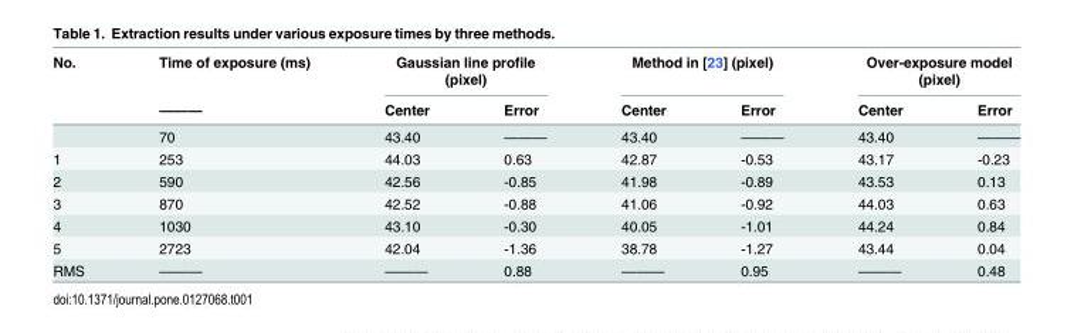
<table><thead><tr><td rowspan="2">No.</td><td rowspan="2">Time of exposure (ms) ———</td><td colspan="2">Gaussian line profile (pixel)</td><td colspan="2">Method in [23] (pixel)</td><td colspan="2">Over-exposure model (pixel)</td></tr><tr><td>Center</td><td>Error</td><td>Center</td><td>Error</td><td>Center</td><td>Error</td></tr></thead><tbody><tr><td></td><td>70</td><td>43.40</td><td>———</td><td>43.40</td><td>———</td><td>43.40</td><td>———</td></tr><tr><td>1</td><td>253</td><td>44.03</td><td>0.63</td><td>42.87</td><td>-0.53</td><td>43.17</td><td>-0.23</td></tr><tr><td>2</td><td>590</td><td>42.56</td><td>-0.85</td><td>41.98</td><td>-0.89</td><td>43.53</td><td>0.13</td></tr><tr><td>3</td><td>870</td><td>42.52</td><td>-0.88</td><td>41.06</td><td>-0.92</td><td>44.03</td><td>0.63</td></tr><tr><td>4</td><td>1030</td><td>43.10</td><td>-0.30</td><td>40.05</td><td>-1.01</td><td>44.24</td><td>0.84</td></tr><tr><td>5</td><td>2723</td><td>42.04</td><td>-1.36</td><td>38.78</td><td>-1.27</td><td>43.44</td><td>0.04</td></tr><tr><td>RMS</td><td>———</td><td>———</td><td>0.88</td><td>———</td><td>0.95</td><td>———</td><td>0.48</td></tr></tbody></table>